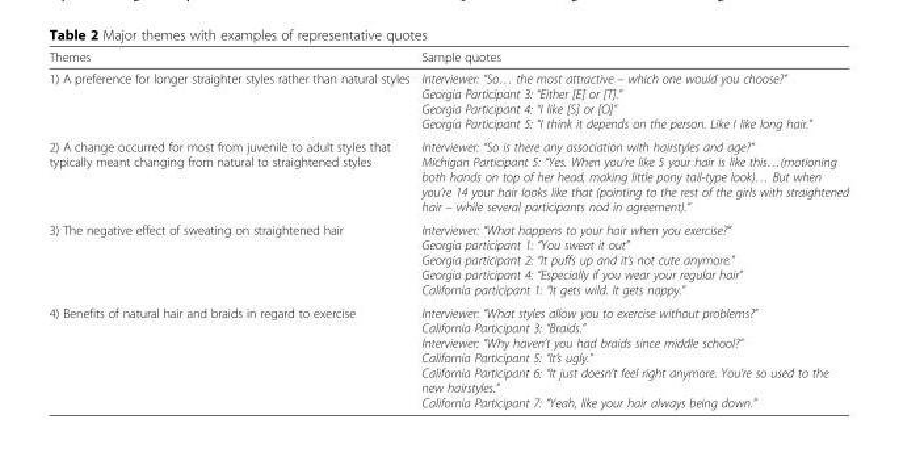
<table><thead><tr><td>Themes</td><td>Sample quotes</td></tr></thead><tbody><tr><td>1) A preference for longer straighter styles rather than natural styles</td><td>Interviewer: “So… the most attractive – which one would you choose?” Georgia Participant 3: “Either [E] or [T].” Georgia Participant 4: “I like [S] or [O]” Georgia Participant 5: “I think it depends on the person. Like I like long hair.”</td></tr><tr><td>2) A change occurred for most from juvenile to adult styles that typically meant changing from natural to straightened styles</td><td>Interviewer: “So is there any association with hairstyles and age?” Michigan Participant 5: “Yes. When you’re like 5 your hair is like this…(motioning both hands on top of her head, making little pony tail-type look)… But when you’re 14 your hair looks like that (pointing to the rest of the girls with straightened hair – while several participants nod in agreement).”</td></tr><tr><td>3) The negative effect of sweating on straightened hair</td><td>Interviewer: “What happens to your hair when you exercise?” Georgia participant 1: “You sweat it out” Georgia participant 2: “It puffs up and it’s not cute anymore.” Georgia participant 4: “Especially if you wear your regular hair” California participant 1: “It gets wild. It gets nappy.”</td></tr><tr><td>4) Benefits of natural hair and braids in regard to exercise</td><td>Interviewer: “What styles allow you to exercise without problems?” California Participant 3: “Braids.” Interviewer: “Why haven’t you had braids since middle school?” California Participant 5: “It’s ugly.” California Participant 6: “It just doesn’t feel right anymore. You’re so used to the new hairstyles.” California Participant 7: “Yeah, like your hair always being down.”</td></tr></tbody></table>